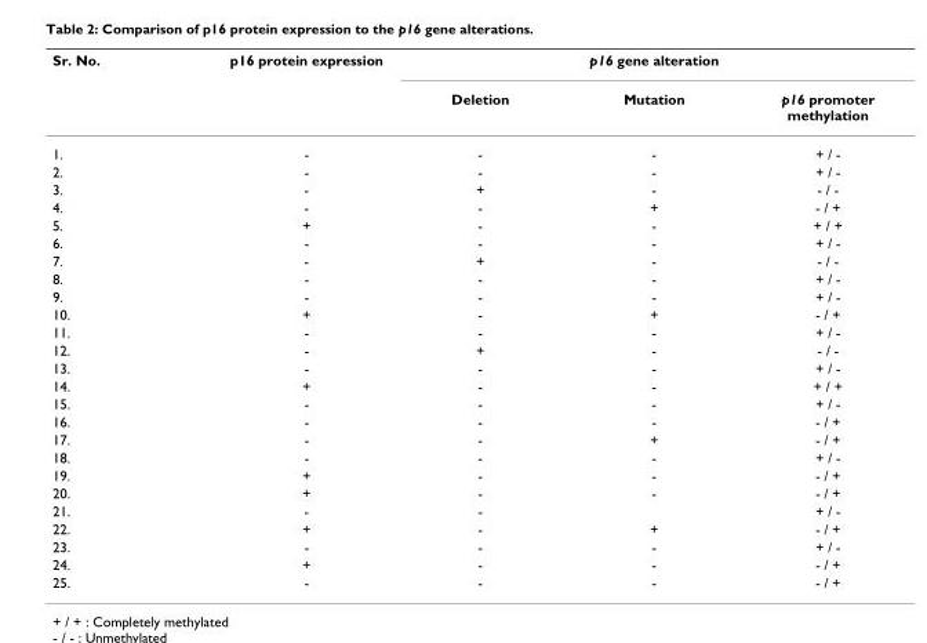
<table><thead><tr><td rowspan="2">Sr. No.</td><td rowspan="2">p16 protein expression</td><td colspan="3">p16 gene alteration</td></tr><tr><td>Deletion</td><td>Mutation</td><td>p16 promoter methylation</td></tr></thead><tbody><tr><td>1.</td><td>-</td><td>-</td><td>-</td><td>+ / -</td></tr><tr><td>2.</td><td>-</td><td>-</td><td>-</td><td>+ / -</td></tr><tr><td>3.</td><td>-</td><td>+</td><td>-</td><td>- / -</td></tr><tr><td>4.</td><td>-</td><td>-</td><td>+</td><td>- / +</td></tr><tr><td>5.</td><td>+</td><td>-</td><td>-</td><td>+ / +</td></tr><tr><td>6.</td><td>-</td><td>-</td><td>-</td><td>+ / -</td></tr><tr><td>7.</td><td>-</td><td>+</td><td>-</td><td>- / -</td></tr><tr><td>8.</td><td>-</td><td>-</td><td>-</td><td>+ / -</td></tr><tr><td>9.</td><td>-</td><td>-</td><td>-</td><td>+ / -</td></tr><tr><td>10.</td><td>+</td><td>-</td><td>+</td><td>- / +</td></tr><tr><td>11.</td><td>-</td><td>-</td><td>-</td><td>+ / -</td></tr><tr><td>12.</td><td>-</td><td>+</td><td>-</td><td>- / -</td></tr><tr><td>13.</td><td>-</td><td>-</td><td>-</td><td>+ / -</td></tr><tr><td>14.</td><td>+</td><td>-</td><td>-</td><td>+ / +</td></tr><tr><td>15.</td><td>-</td><td>-</td><td>-</td><td>+ / -</td></tr><tr><td>16.</td><td>-</td><td>-</td><td>-</td><td>- / +</td></tr><tr><td>17.</td><td>-</td><td>-</td><td>+</td><td>- / +</td></tr><tr><td>18.</td><td>-</td><td>-</td><td>-</td><td>+ / -</td></tr><tr><td>19.</td><td>+</td><td>-</td><td>-</td><td>- / +</td></tr><tr><td>20.</td><td>+</td><td>-</td><td>-</td><td>- / +</td></tr><tr><td>21.</td><td>-</td><td>-</td><td></td><td>+ / -</td></tr><tr><td>22.</td><td>+</td><td>-</td><td>+</td><td>- / +</td></tr><tr><td>23.</td><td>-</td><td>-</td><td>-</td><td>+ / -</td></tr><tr><td>24.</td><td>+</td><td>-</td><td>-</td><td>- / +</td></tr><tr><td>25.</td><td>-</td><td>-</td><td>-</td><td>- / +</td></tr></tbody></table>